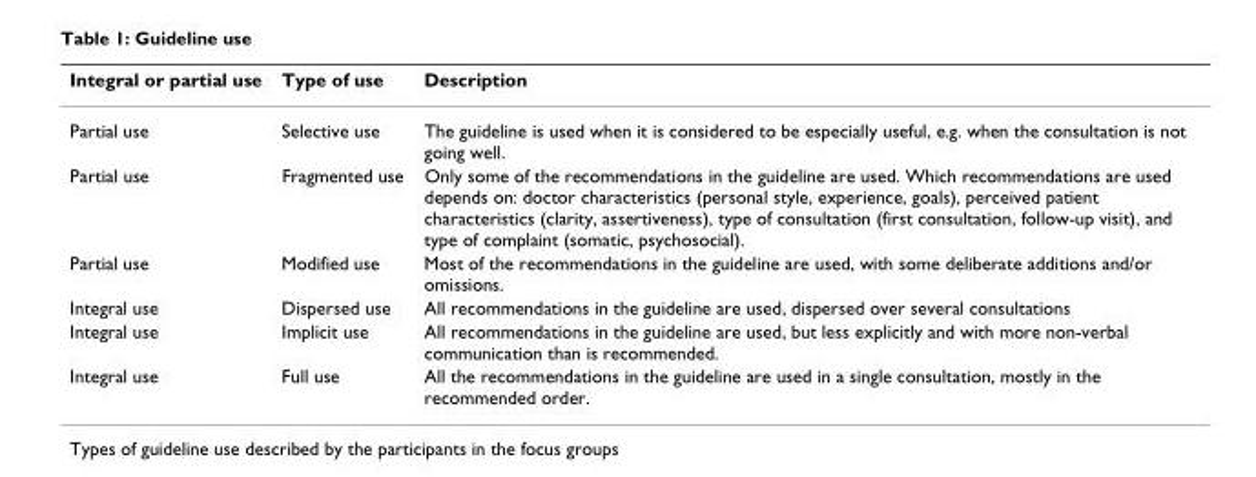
<table><thead><tr><td>Integral or partial use</td><td>Type of use</td><td>Description</td></tr></thead><tbody><tr><td>Partial use</td><td>Selective use</td><td>The guideline is used when it is considered to be especially useful, e.g. when the consultation is not going well.</td></tr><tr><td>Partial use</td><td>Fragmented use</td><td>Only some of the recommendations in the guideline are used. Which recommendations are used depends on: doctor characteristics (personal style, experience, goals), perceived patient characteristics (clarity, assertiveness), type of consultation (first consultation, follow-up visit), and type of complaint (somatic, psychosocial).</td></tr><tr><td>Partial use</td><td>Modified use</td><td>Most of the recommendations in the guideline are used, with some deliberate additions and/or omissions.</td></tr><tr><td>Integral use</td><td>Dispersed use</td><td>All recommendations in the guideline are used, dispersed over several consultations</td></tr><tr><td>Integral use</td><td>Implicit use</td><td>All recommendations in the guideline are used, but less explicitly and with more non-verbal communication than is recommended.</td></tr><tr><td>Integral use</td><td>Full use</td><td>All the recommendations in the guideline are used in a single consultation, mostly in the recommended order.</td></tr></tbody></table>